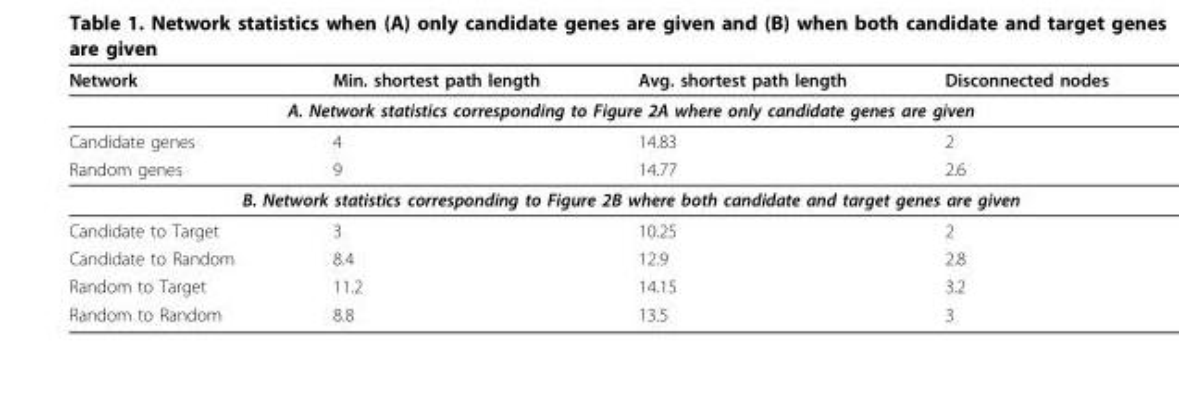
<table><thead><tr><td>Network</td><td>Min. shortest path length</td><td>Avg. shortest path length</td><td>Disconnected nodes</td></tr></thead><tbody><tr><td colspan="4">A. Network statistics corresponding to Figure 2A where only candidate genes are given</td></tr><tr><td>Candidate genes</td><td>4</td><td>14.83</td><td>2</td></tr><tr><td>Random genes</td><td>9</td><td>14.77</td><td>2.6</td></tr><tr><td colspan="4">B. Network statistics corresponding to Figure 2B where both candidate and target genes are given</td></tr><tr><td>Candidate to Target</td><td>3</td><td>10.25</td><td>2</td></tr><tr><td>Candidate to Random</td><td>8.4</td><td>12.9</td><td>2.8</td></tr><tr><td>Random to Target</td><td>11.2</td><td>14.15</td><td>3.2</td></tr><tr><td>Random to Random</td><td>8.8</td><td>13.5</td><td>3</td></tr></tbody></table>